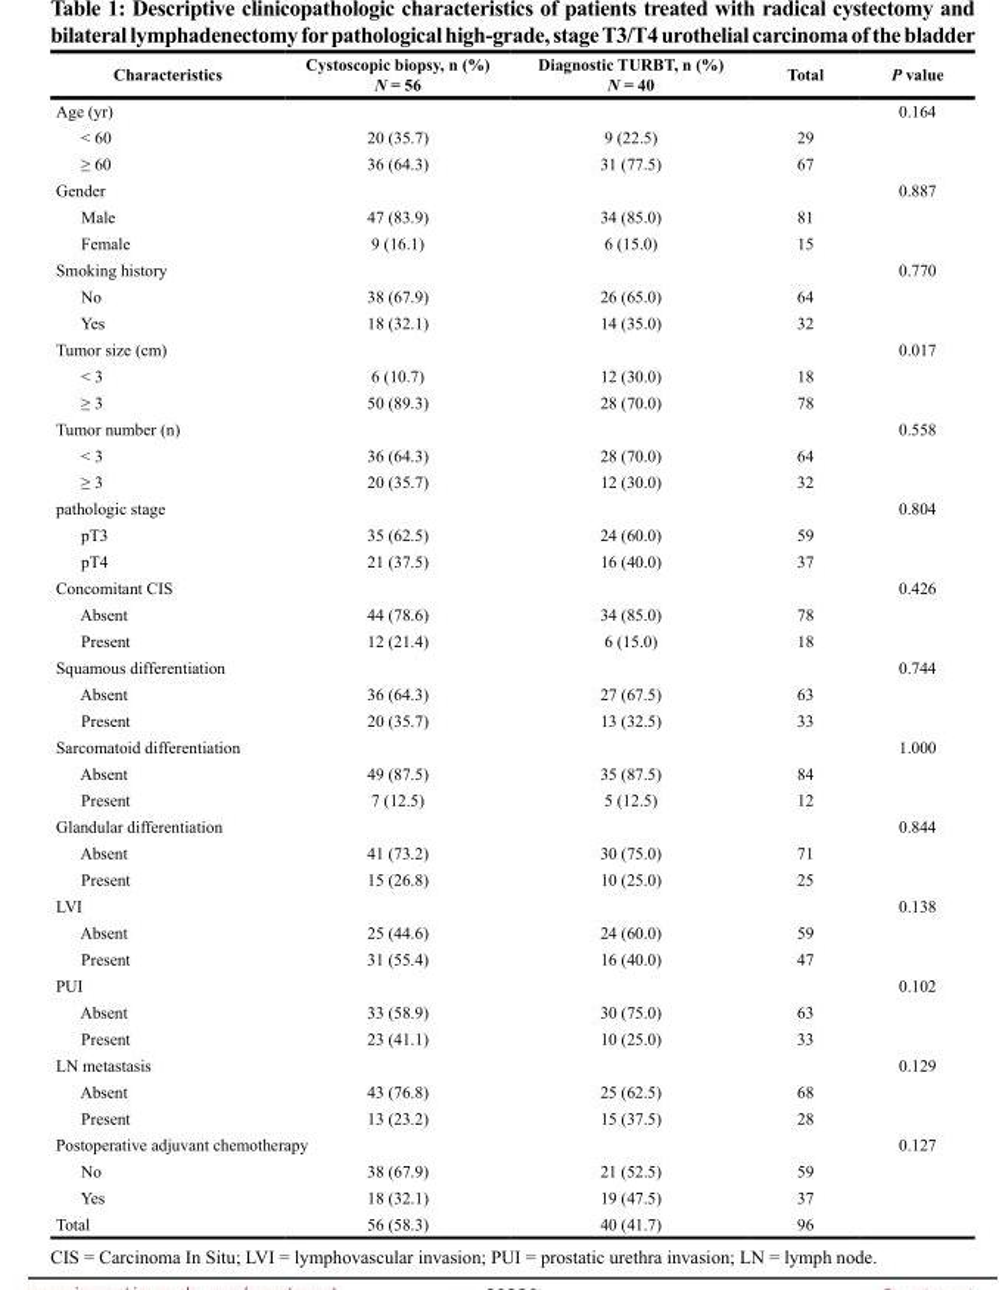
<table><thead><tr><td>Characteristics</td><td>Cystoscopic biopsy, n (%) N = 56</td><td>Diagnostic TURBT, n (%) N = 40</td><td>Total</td><td>P value</td></tr></thead><tbody><tr><td>Age (yr)</td><td></td><td></td><td></td><td>0.164</td></tr><tr><td>&lt; 60</td><td>20 (35.7)</td><td>9 (22.5)</td><td>29</td><td></td></tr><tr><td>≥ 60</td><td>36 (64.3)</td><td>31 (77.5)</td><td>67</td><td></td></tr><tr><td>Gender</td><td></td><td></td><td></td><td>0.887</td></tr><tr><td>Male</td><td>47 (83.9)</td><td>34 (85.0)</td><td>81</td><td></td></tr><tr><td>Female</td><td>9 (16.1)</td><td>6 (15.0)</td><td>15</td><td></td></tr><tr><td>Smoking history</td><td></td><td></td><td></td><td>0.770</td></tr><tr><td>No</td><td>38 (67.9)</td><td>26 (65.0)</td><td>64</td><td></td></tr><tr><td>Yes</td><td>18 (32.1)</td><td>14 (35.0)</td><td>32</td><td></td></tr><tr><td>Tumor size (cm)</td><td></td><td></td><td></td><td>0.017</td></tr><tr><td>&lt; 3</td><td>6 (10.7)</td><td>12 (30.0)</td><td>18</td><td></td></tr><tr><td>≥ 3</td><td>50 (89.3)</td><td>28 (70.0)</td><td>78</td><td></td></tr><tr><td>Tumor number (n)</td><td></td><td></td><td></td><td>0.558</td></tr><tr><td>&lt; 3</td><td>36 (64.3)</td><td>28 (70.0)</td><td>64</td><td></td></tr><tr><td>≥ 3</td><td>20 (35.7)</td><td>12 (30.0)</td><td>32</td><td></td></tr><tr><td>pathologic stage</td><td></td><td></td><td></td><td>0.804</td></tr><tr><td>pT3</td><td>35 (62.5)</td><td>24 (60.0)</td><td>59</td><td></td></tr><tr><td>pT4</td><td>21 (37.5)</td><td>16 (40.0)</td><td>37</td><td></td></tr><tr><td>Concomitant CIS</td><td></td><td></td><td></td><td>0.426</td></tr><tr><td>Absent</td><td>44 (78.6)</td><td>34 (85.0)</td><td>78</td><td></td></tr><tr><td>Present</td><td>12 (21.4)</td><td>6 (15.0)</td><td>18</td><td></td></tr><tr><td>Squamous differentiation</td><td></td><td></td><td></td><td>0.744</td></tr><tr><td>Absent</td><td>36 (64.3)</td><td>27 (67.5)</td><td>63</td><td></td></tr><tr><td>Present</td><td>20 (35.7)</td><td>13 (32.5)</td><td>33</td><td></td></tr><tr><td>Sarcomatoid differentiation</td><td></td><td></td><td></td><td>1.000</td></tr><tr><td>Absent</td><td>49 (87.5)</td><td>35 (87.5)</td><td>84</td><td></td></tr><tr><td>Present</td><td>7 (12.5)</td><td>5 (12.5)</td><td>12</td><td></td></tr><tr><td>Glandular differentiation</td><td></td><td></td><td></td><td>0.844</td></tr><tr><td>Absent</td><td>41 (73.2)</td><td>30 (75.0)</td><td>71</td><td></td></tr><tr><td>Present</td><td>15 (26.8)</td><td>10 (25.0)</td><td>25</td><td></td></tr><tr><td>LVI</td><td></td><td></td><td></td><td>0.138</td></tr><tr><td>Absent</td><td>25 (44.6)</td><td>24 (60.0)</td><td>59</td><td></td></tr><tr><td>Present</td><td>31 (55.4)</td><td>16 (40.0)</td><td>47</td><td></td></tr><tr><td>PUI</td><td></td><td></td><td></td><td>0.102</td></tr><tr><td>Absent</td><td>33 (58.9)</td><td>30 (75.0)</td><td>63</td><td></td></tr><tr><td>Present</td><td>23 (41.1)</td><td>10 (25.0)</td><td>33</td><td></td></tr><tr><td>LN metastasis</td><td></td><td></td><td></td><td>0.129</td></tr><tr><td>Absent</td><td>43 (76.8)</td><td>25 (62.5)</td><td>68</td><td></td></tr><tr><td>Present</td><td>13 (23.2)</td><td>15 (37.5)</td><td>28</td><td></td></tr><tr><td colspan="2">Postoperative adjuvant chemotherapy</td><td></td><td></td><td>0.127</td></tr><tr><td>No</td><td>38 (67.9)</td><td>21 (52.5)</td><td>59</td><td></td></tr><tr><td>Yes</td><td>18 (32.1)</td><td>19 (47.5)</td><td>37</td><td></td></tr><tr><td>Total</td><td>56 (58.3)</td><td>40 (41.7)</td><td>96</td><td></td></tr></tbody></table>